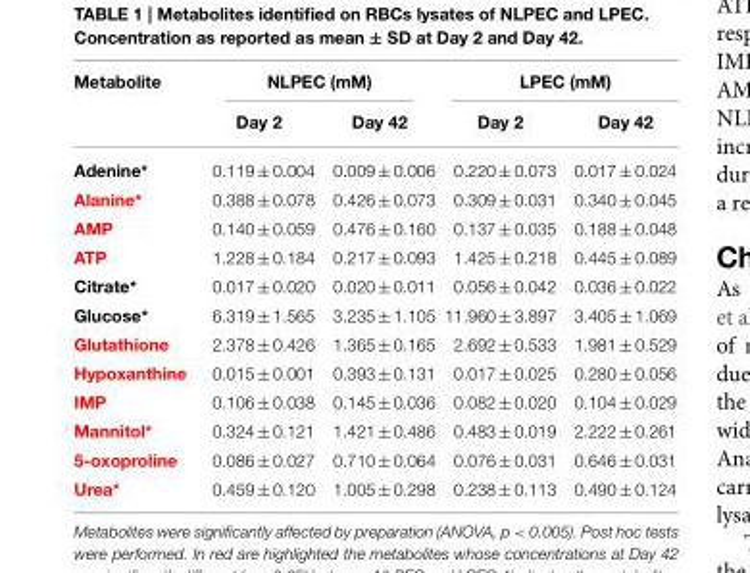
<table><thead><tr><td rowspan="2">Metabolite</td><td colspan="2">NLPEC (mM)</td><td colspan="2">LPEC (mM)</td></tr><tr><td>Day 2</td><td>Day 42</td><td>Day 2</td><td>Day 42</td></tr></thead><tbody><tr><td>Adenine*</td><td>0.119 ± 0.004</td><td>0.009 ± 0.006</td><td>0.220 ± 0.073</td><td>0.017 ± 0.024</td></tr><tr><td>Alanine*</td><td>0.388 ± 0.078</td><td>0.426 ± 0.073</td><td>0.309 ± 0.031</td><td>0.340 ± 0.045</td></tr><tr><td>AMP</td><td>0.140 ± 0.059</td><td>0.476 ± 0.160</td><td>0.137 ± 0.035</td><td>0.188 ± 0.048</td></tr><tr><td>ATP</td><td>1.228 ± 0.184</td><td>0.217 ± 0.093</td><td>1.425 ± 0.218</td><td>0.445 ± 0.089</td></tr><tr><td>Citrate*</td><td>0.017 ± 0.020</td><td>0.020 ± 0.011</td><td>0.056 ± 0.042</td><td>0.036 ± 0.022</td></tr><tr><td>Glucose*</td><td>6.319 ± 1.565</td><td>3.235 ± 1.105</td><td>11.960 ± 3.897</td><td>3.405 ± 1.069</td></tr><tr><td>Glutathione</td><td>2.378 ± 0.426</td><td>1.365 ± 0.165</td><td>2.692 ± 0.533</td><td>1.981 ± 0.529</td></tr><tr><td>Hypoxanthine</td><td>0.015 ± 0.001</td><td>0.393 ± 0.131</td><td>0.017 ± 0.025</td><td>0.280 ± 0.056</td></tr><tr><td>IMP</td><td>0.106 ± 0.038</td><td>0.145 ± 0.036</td><td>0.082 ± 0.020</td><td>0.104 ± 0.029</td></tr><tr><td>Mannitol*</td><td>0.324 ± 0.121</td><td>1.421 ± 0.486</td><td>0.483 ± 0.019</td><td>2.222 ± 0.261</td></tr><tr><td>5-oxoproline</td><td>0.086 ± 0.027</td><td>0.710 ± 0.064</td><td>0.076 ± 0.031</td><td>0.646 ± 0.031</td></tr><tr><td>Urea*</td><td>0.459 ± 0.120</td><td>1.005 ± 0.298</td><td>0.238 ± 0.113</td><td>0.490 ± 0.124</td></tr></tbody></table>